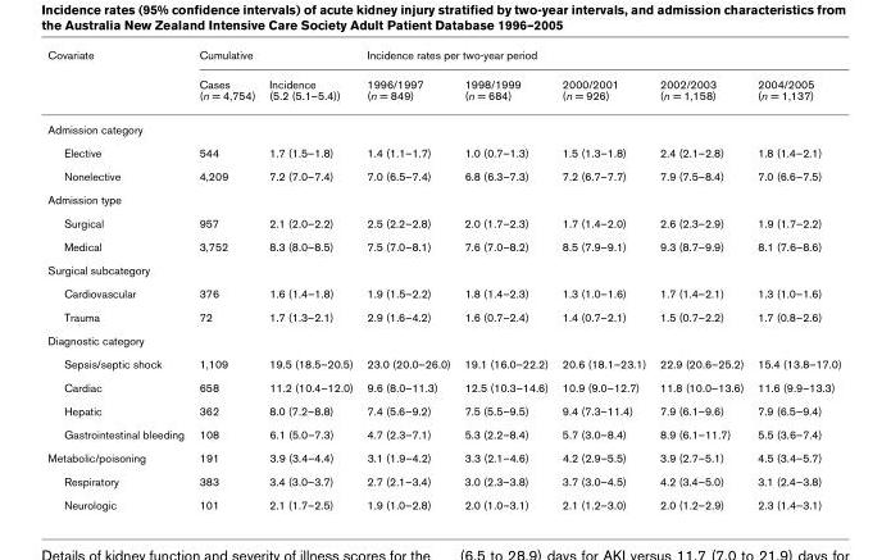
<table><thead><tr><td rowspan="2">Covariate</td><td colspan="2">Cumulative</td><td colspan="5">Incidence rates per two-year period</td></tr><tr><td>Cases (n = 4,754)</td><td>Incidence (5.2 (5.1–5.4))</td><td>1996/1997 (n = 849)</td><td>1998/1999 (n = 684)</td><td>2000/2001 (n = 926)</td><td>2002/2003 (n = 1,158)</td><td>2004/2005 (n = 1,137)</td></tr></thead><tbody><tr><td colspan="8">Admission category</td></tr><tr><td>Elective</td><td>544</td><td>1.7 (1.5–1.8)</td><td>1.4 (1.1–1.7)</td><td>1.0 (0.7–1.3)</td><td>1.5 (1.3–1.8)</td><td>2.4 (2.1–2.8)</td><td>1.8 (1.4–2.1)</td></tr><tr><td>Nonelective</td><td>4,209</td><td>7.2 (7.0–7.4)</td><td>7.0 (6.5–7.4)</td><td>6.8 (6.3–7.3)</td><td>7.2 (6.7–7.7)</td><td>7.9 (7.5–8.4)</td><td>7.0 (6.6–7.5)</td></tr><tr><td colspan="8">Admission type</td></tr><tr><td>Surgical</td><td>957</td><td>2.1 (2.0–2.2)</td><td>2.5 (2.2–2.8)</td><td>2.0 (1.7–2.3)</td><td>1.7 (1.4–2.0)</td><td>2.6 (2.3–2.9)</td><td>1.9 (1.7–2.2)</td></tr><tr><td>Medical</td><td>3,752</td><td>8.3 (8.0–8.5)</td><td>7.5 (7.0–8.1)</td><td>7.6 (7.0–8.2)</td><td>8.5 (7.9–9.1)</td><td>9.3 (8.7–9.9)</td><td>8.1 (7.6–8.6)</td></tr><tr><td colspan="8">Surgical subcategory</td></tr><tr><td>Cardiovascular</td><td>376</td><td>1.6 (1.4–1.8)</td><td>1.9 (1.5–2.2)</td><td>1.8 (1.4–2.3)</td><td>1.3 (1.0–1.6)</td><td>1.7 (1.4–2.1)</td><td>1.3 (1.0–1.6)</td></tr><tr><td>Trauma</td><td>72</td><td>1.7 (1.3–2.1)</td><td>2.9 (1.6–4.2)</td><td>1.6 (0.7–2.4)</td><td>1.4 (0.7–2.1)</td><td>1.5 (0.7–2.2)</td><td>1.7 (0.8–2.6)</td></tr><tr><td colspan="8">Diagnostic category</td></tr><tr><td>Sepsis/septic shock</td><td>1,109</td><td>19.5 (18.5–20.5)</td><td>23.0 (20.0–26.0)</td><td>19.1 (16.0–22.2)</td><td>20.6 (18.1–23.1)</td><td>22.9 (20.6–25.2)</td><td>15.4 (13.8–17.0)</td></tr><tr><td>Cardiac</td><td>658</td><td>11.2 (10.4–12.0)</td><td>9.6 (8.0–11.3)</td><td>12.5 (10.3–14.6)</td><td>10.9 (9.0–12.7)</td><td>11.8 (10.0–13.6)</td><td>11.6 (9.9–13.3)</td></tr><tr><td>Hepatic</td><td>362</td><td>8.0 (7.2–8.8)</td><td>7.4 (5.6–9.2)</td><td>7.5 (5.5–9.5)</td><td>9.4 (7.3–11.4)</td><td>7.9 (6.1–9.6)</td><td>7.9 (6.5–9.4)</td></tr><tr><td>Gastrointestinal bleeding</td><td>108</td><td>6.1 (5.0–7.3)</td><td>4.7 (2.3–7.1)</td><td>5.3 (2.2–8.4)</td><td>5.7 (3.0–8.4)</td><td>8.9 (6.1–11.7)</td><td>5.5 (3.6–7.4)</td></tr><tr><td>Metabolic/poisoning</td><td>191</td><td>3.9 (3.4–4.4)</td><td>3.1 (1.9–4.2)</td><td>3.3 (2.1–4.6)</td><td>4.2 (2.9–5.5)</td><td>3.9 (2.7–5.1)</td><td>4.5 (3.4–5.7)</td></tr><tr><td>Respiratory</td><td>383</td><td>3.4 (3.0–3.7)</td><td>2.7 (2.1–3.4)</td><td>3.0 (2.3–3.8)</td><td>3.7 (3.0–4.5)</td><td>4.2 (3.4–5.0)</td><td>3.1 (2.4–3.8)</td></tr><tr><td>Neurologic</td><td>101</td><td>2.1 (1.7–2.5)</td><td>1.9 (1.0–2.8)</td><td>2.0 (1.0–3.1)</td><td>2.1 (1.2–3.0)</td><td>2.0 (1.2–2.9)</td><td>2.3 (1.4–3.1)</td></tr></tbody></table>